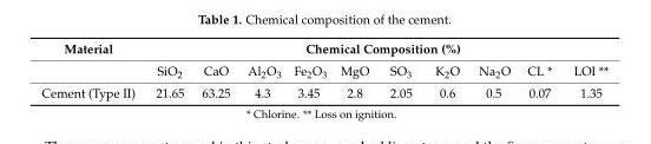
<table><thead><tr><td rowspan="2">Material</td><td colspan="10">Chemical Composition (%)</td></tr><tr><td>SiO<sub>2</sub></td><td>CaO</td><td>Al<sub>2</sub>O<sub>3</sub></td><td>Fe<sub>2</sub>O<sub>3</sub></td><td>MgO</td><td>SO<sub>3</sub></td><td>K<sub>2</sub>O</td><td>Na<sub>2</sub>O</td><td>CL *</td><td>LOI **</td></tr></thead><tbody><tr><td>Cement (Type II)</td><td>21.65</td><td>63.25</td><td>4.3</td><td>3.45</td><td>2.8</td><td>2.05</td><td>0.6</td><td>0.5</td><td>0.07</td><td>1.35</td></tr></tbody></table>